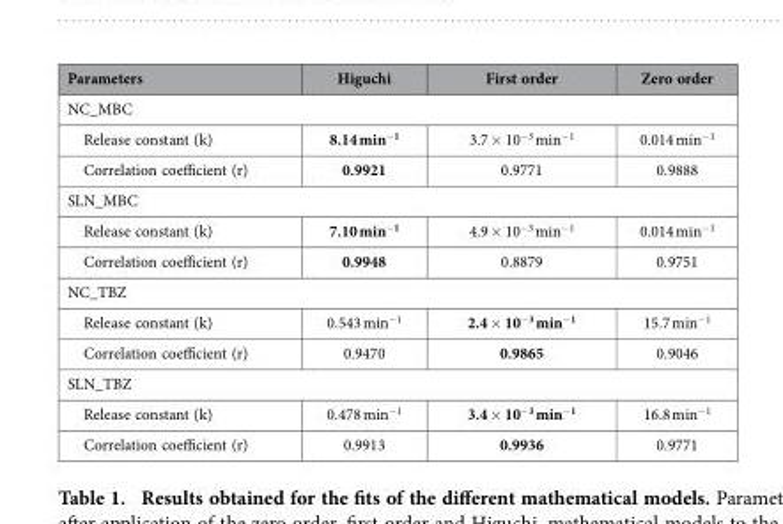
<table><thead><tr><td>Parameters</td><td>Higuchi</td><td>First order</td><td>Zero order</td></tr></thead><tbody><tr><td colspan="4">NC_MBC</td></tr><tr><td>Release constant (k)</td><td>8.14 min<sup>−1</sup></td><td>3.7 × 10<sup>−3</sup> min<sup>−1</sup></td><td>0.014 min<sup>−1</sup></td></tr><tr><td>Correlation coefficient (r)</td><td>0.9921</td><td>0.9771</td><td>0.9888</td></tr><tr><td colspan="4">SLN_MBC</td></tr><tr><td>Release constant (k)</td><td>7.10 min<sup>−1</sup></td><td>4.9 × 10<sup>−3</sup> min<sup>−1</sup></td><td>0.014 min<sup>−1</sup></td></tr><tr><td>Correlation coefficient (r)</td><td>0.9948</td><td>0.8879</td><td>0.9751</td></tr><tr><td colspan="4">NC_TBZ</td></tr><tr><td>Release constant (k)</td><td>0.543 min<sup>−1</sup></td><td>2.4 × 10<sup>−3</sup> min<sup>−1</sup></td><td>15.7 min<sup>−1</sup></td></tr><tr><td>Correlation coefficient (r)</td><td>0.9470</td><td>0.9865</td><td>0.9046</td></tr><tr><td colspan="4">SLN_TBZ</td></tr><tr><td>Release constant (k)</td><td>0.478 min<sup>−1</sup></td><td>3.4 × 10<sup>−3</sup> min<sup>−1</sup></td><td>16.8 min<sup>−1</sup></td></tr><tr><td>Correlation coefficient (r)</td><td>0.9913</td><td>0.9936</td><td>0.9771</td></tr></tbody></table>